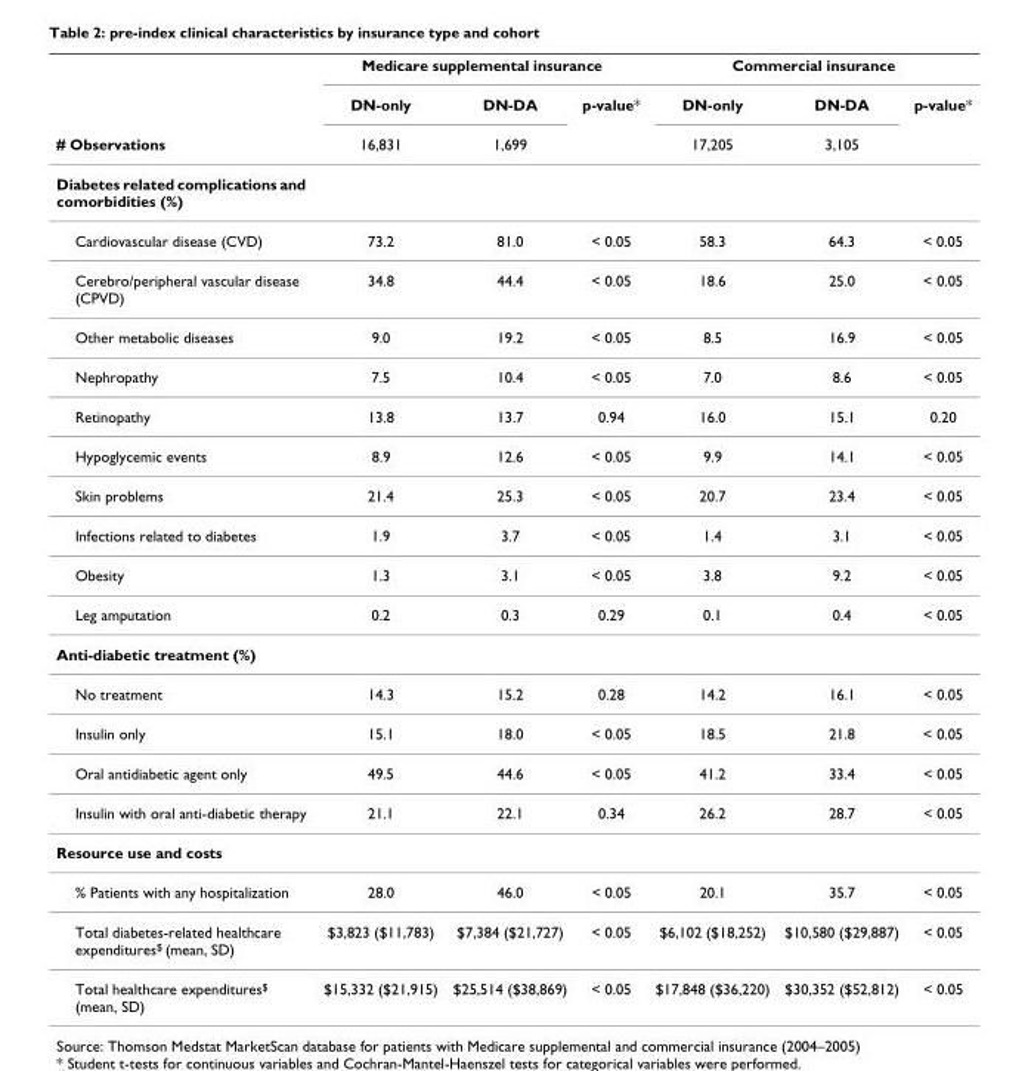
<table><thead><tr><td rowspan="3"># Observations</td><td colspan="3">Medicare supplemental insurance</td><td colspan="3">Commercial insurance</td></tr><tr><td rowspan="2">DN-only 16,831</td><td rowspan="2">DN-DA 1,699</td><td rowspan="2">p-value*</td><td rowspan="2">DN-only 17,205</td><td rowspan="2">DN-DA 3,105</td><td rowspan="2">p-value*</td></tr><tr></tr></thead><tbody><tr><td colspan="7">Diabetes related complications and comorbidities (%)</td></tr><tr><td>Cardiovascular disease (CVD)</td><td>73.2</td><td>81.0</td><td>&lt; 0.05</td><td>58.3</td><td>64.3</td><td>&lt; 0.05</td></tr><tr><td>Cerebro/peripheral vascular disease (CPVD)</td><td>34.8</td><td>44.4</td><td>&lt; 0.05</td><td>18.6</td><td>25.0</td><td>&lt; 0.05</td></tr><tr><td>Other metabolic diseases</td><td>9.0</td><td>19.2</td><td>&lt; 0.05</td><td>8.5</td><td>16.9</td><td>&lt; 0.05</td></tr><tr><td>Nephropathy</td><td>7.5</td><td>10.4</td><td>&lt; 0.05</td><td>7.0</td><td>8.6</td><td>&lt; 0.05</td></tr><tr><td>Retinopathy</td><td>13.8</td><td>13.7</td><td>0.94</td><td>16.0</td><td>15.1</td><td>0.20</td></tr><tr><td>Hypoglycemic events</td><td>8.9</td><td>12.6</td><td>&lt; 0.05</td><td>9.9</td><td>14.1</td><td>&lt; 0.05</td></tr><tr><td>Skin problems</td><td>21.4</td><td>25.3</td><td>&lt; 0.05</td><td>20.7</td><td>23.4</td><td>&lt; 0.05</td></tr><tr><td>Infections related to diabetes</td><td>1.9</td><td>3.7</td><td>&lt; 0.05</td><td>1.4</td><td>3.1</td><td>&lt; 0.05</td></tr><tr><td>Obesity</td><td>1.3</td><td>3.1</td><td>&lt; 0.05</td><td>3.8</td><td>9.2</td><td>&lt; 0.05</td></tr><tr><td>Leg amputation</td><td>0.2</td><td>0.3</td><td>0.29</td><td>0.1</td><td>0.4</td><td>&lt; 0.05</td></tr><tr><td colspan="7">Anti-diabetic treatment (%)</td></tr><tr><td>No treatment</td><td>14.3</td><td>15.2</td><td>0.28</td><td>14.2</td><td>16.1</td><td>&lt; 0.05</td></tr><tr><td>Insulin only</td><td>15.1</td><td>18.0</td><td>&lt; 0.05</td><td>18.5</td><td>21.8</td><td>&lt; 0.05</td></tr><tr><td>Oral antidiabetic agent only</td><td>49.5</td><td>44.6</td><td>&lt; 0.05</td><td>41.2</td><td>33.4</td><td>&lt; 0.05</td></tr><tr><td>Insulin with oral anti-diabetic therapy</td><td>21.1</td><td>22.1</td><td>0.34</td><td>26.2</td><td>28.7</td><td>&lt; 0.05</td></tr><tr><td colspan="7">Resource use and costs</td></tr><tr><td>% Patients with any hospitalization</td><td>28.0</td><td>46.0</td><td>&lt; 0.05</td><td>20.1</td><td>35.7</td><td>&lt; 0.05</td></tr><tr><td>Total diabetes-related healthcare expenditures<sup>$</sup> (mean, SD)</td><td>$3,823 ($11,783)</td><td>$7,384 ($21,727)</td><td>&lt; 0.05</td><td>$6,102 ($18,252)</td><td>$10,580 ($29,887)</td><td>&lt; 0.05</td></tr><tr><td>Total healthcare expenditures<sup>$</sup> (mean, SD)</td><td>$15,332 ($21,915)</td><td>$25,514 ($38,869)</td><td>&lt; 0.05</td><td>$17,848 ($36,220)</td><td>$30,352 ($52,812)</td><td>&lt; 0.05</td></tr></tbody></table>